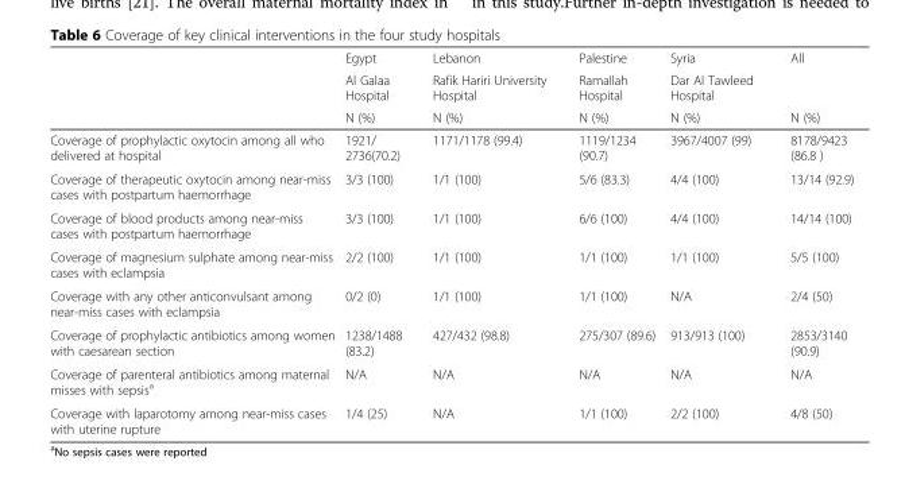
<table><thead><tr><td rowspan="3"></td><td rowspan="3">Egypt Al Galaa Hospital N (%)</td><td rowspan="3">Lebanon Rafik Hariri University Hospital N (%)</td><td rowspan="3">Palestine Ramallah Hospital N (%)</td><td rowspan="3">Syria Dar Al Tawleed Hospital N (%)</td><td rowspan="3">All N (%)</td></tr><tr></tr><tr></tr></thead><tbody><tr><td>Coverage of prophylactic oxytocin among all who delivered at hospital</td><td>1921/ 2736(70.2)</td><td>1171/1178 (99.4)</td><td>1119/1234 (90.7)</td><td>3967/4007 (99)</td><td>8178/9423 (86.8 )</td></tr><tr><td>Coverage of therapeutic oxytocin among near-miss cases with postpartum haemorrhage</td><td>3/3 (100)</td><td>1/1 (100)</td><td>5/6 (83.3)</td><td>4/4 (100)</td><td>13/14 (92.9)</td></tr><tr><td>Coverage of blood products among near-miss cases with postpartum haemorrhage</td><td>3/3 (100)</td><td>1/1 (100)</td><td>6/6 (100)</td><td>4/4 (100)</td><td>14/14 (100)</td></tr><tr><td>Coverage of magnesium sulphate among near-miss cases with eclampsia</td><td>2/2 (100)</td><td>1/1 (100)</td><td>1/1 (100)</td><td>1/1 (100)</td><td>5/5 (100)</td></tr><tr><td>Coverage with any other anticonvulsant among near-miss cases with eclampsia</td><td>0/2 (0)</td><td>1/1 (100)</td><td>1/1 (100)</td><td>N/A</td><td>2/4 (50)</td></tr><tr><td>Coverage of prophylactic antibiotics among women with caesarean section</td><td>1238/1488 (83.2)</td><td>427/432 (98.8)</td><td>275/307 (89.6)</td><td>913/913 (100)</td><td>2853/3140 (90.9)</td></tr><tr><td>Coverage of parenteral antibiotics among maternal misses with sepsis<sup>a</sup></td><td>N/A</td><td>N/A</td><td>N/A</td><td>N/A</td><td>N/A</td></tr><tr><td>Coverage with laparotomy among near-miss cases with uterine rupture</td><td>1/4 (25)</td><td>N/A</td><td>1/1 (100)</td><td>2/2 (100)</td><td>4/8 (50)</td></tr></tbody></table>